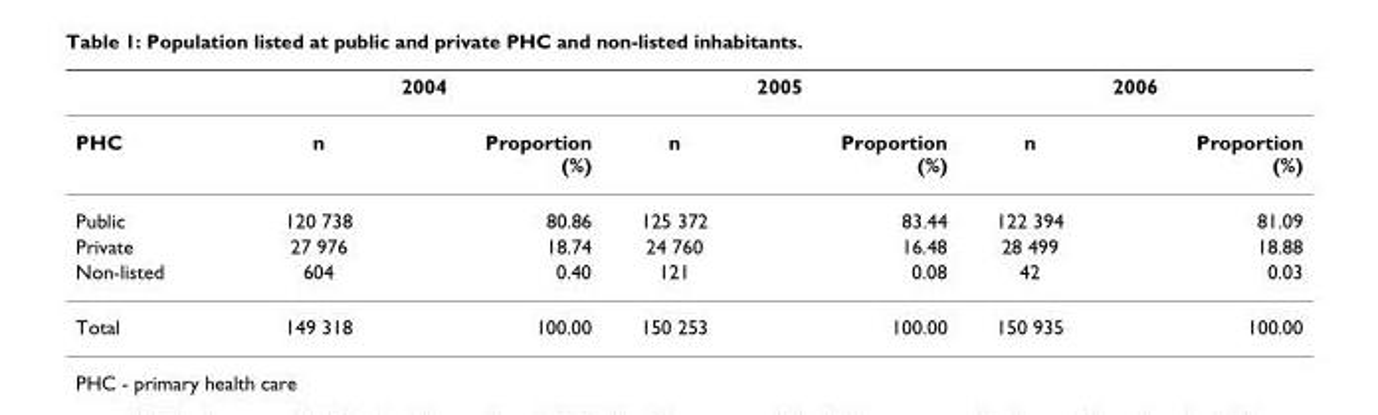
<table><thead><tr><td rowspan="2">PHC</td><td colspan="2">2004</td><td colspan="2">2005</td><td colspan="2">2006</td></tr><tr><td>n</td><td>Proportion (%)</td><td>n</td><td>Proportion (%)</td><td>n</td><td>Proportion (%)</td></tr></thead><tbody><tr><td>Public</td><td>120 738</td><td>80.86</td><td>125 372</td><td>83.44</td><td>122 394</td><td>81.09</td></tr><tr><td>Private</td><td>27 976</td><td>18.74</td><td>24 760</td><td>16.48</td><td>28 499</td><td>18.88</td></tr><tr><td>Non-listed</td><td>604</td><td>0.40</td><td>121</td><td>0.08</td><td>42</td><td>0.03</td></tr><tr><td>Total</td><td>149 318</td><td>100.00</td><td>150 253</td><td>100.00</td><td>150 935</td><td>100.00</td></tr></tbody></table>